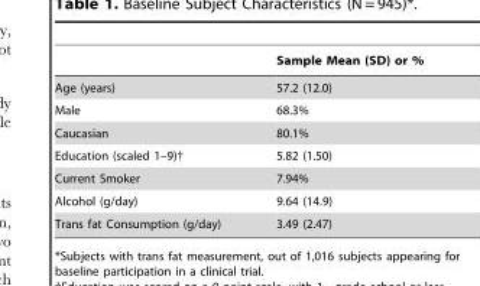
<table><thead><tr><td></td><td>Sample Mean (SD) or %</td></tr></thead><tbody><tr><td>Age (years)</td><td>57.2 (12.0)</td></tr><tr><td>Male</td><td>68.3%</td></tr><tr><td>Caucasian</td><td>80.1%</td></tr><tr><td>Education (scaled 1–9)†</td><td>5.82 (1.50)</td></tr><tr><td>Current Smoker</td><td>7.94%</td></tr><tr><td>Alcohol (g/day)</td><td>9.64 (14.9)</td></tr><tr><td>Trans fat Consumption (g/day)</td><td>3.49 (2.47)</td></tr></tbody></table>